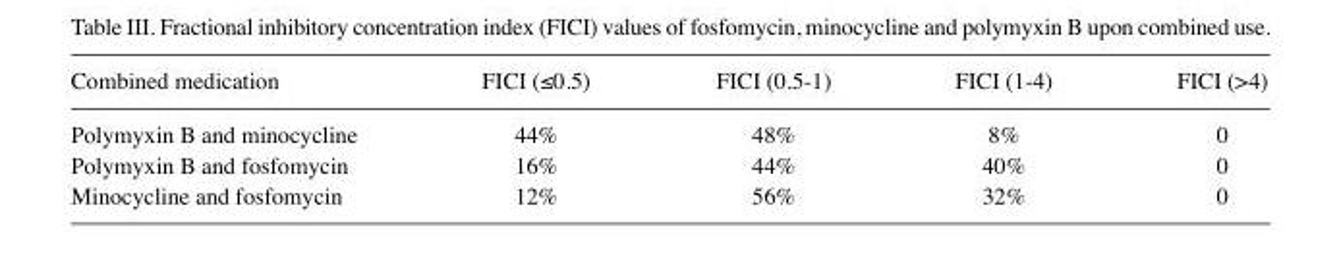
<table><thead><tr><td>Combined medication</td><td>FICI (≤0.5)</td><td>FICI (0.5-1)</td><td>FICI (1-4)</td><td>FICI (&gt;4)</td></tr></thead><tbody><tr><td>Polymyxin B and minocycline</td><td>44%</td><td>48%</td><td>8%</td><td>0</td></tr><tr><td>Polymyxin B and fosfomycin</td><td>16%</td><td>44%</td><td>40%</td><td>0</td></tr><tr><td>Minocycline and fosfomycin</td><td>12%</td><td>56%</td><td>32%</td><td>0</td></tr></tbody></table>